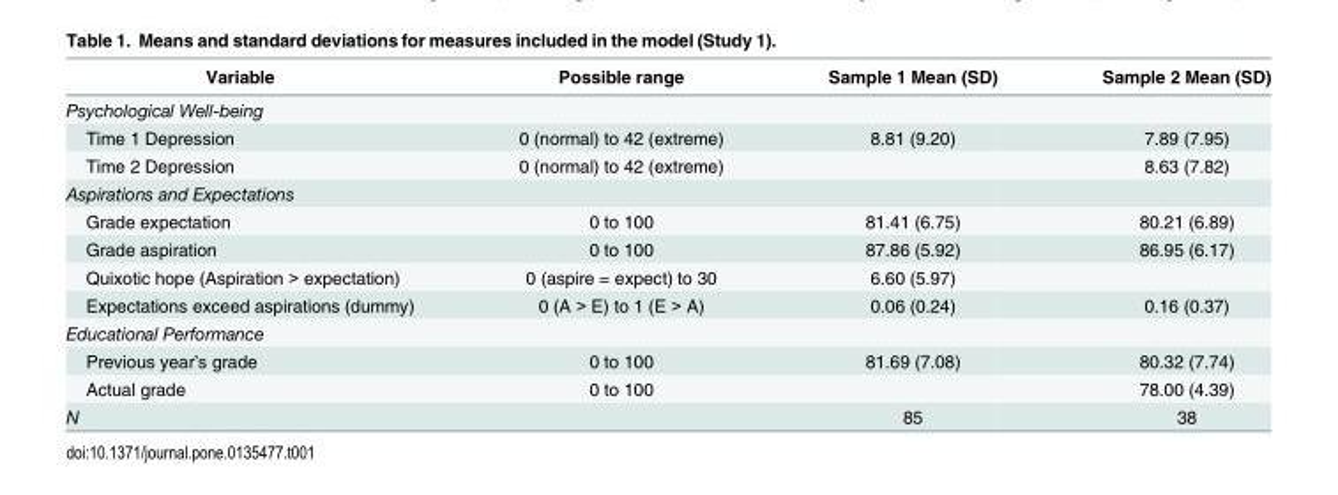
<table><thead><tr><td>Variable</td><td>Possible range</td><td>Sample 1 Mean (SD)</td><td>Sample 2 Mean (SD)</td></tr></thead><tbody><tr><td colspan="4">Psychological Well-being</td></tr><tr><td>Time 1 Depression</td><td>0 (normal) to 42 (extreme)</td><td>8.81 (9.20)</td><td>7.89 (7.95)</td></tr><tr><td>Time 2 Depression</td><td>0 (normal) to 42 (extreme)</td><td></td><td>8.63 (7.82)</td></tr><tr><td colspan="4">Aspirations and Expectations</td></tr><tr><td>Grade expectation</td><td>0 to 100</td><td>81.41 (6.75)</td><td>80.21 (6.89)</td></tr><tr><td>Grade aspiration</td><td>0 to 100</td><td>87.86 (5.92)</td><td>86.95 (6.17)</td></tr><tr><td>Quixotic hope (Aspiration &gt; expectation)</td><td>0 (aspire = expect) to 30</td><td>6.60 (5.97)</td><td></td></tr><tr><td>Expectations exceed aspirations (dummy)</td><td>0 (A &gt; E) to 1 (E &gt; A)</td><td>0.06 (0.24)</td><td>0.16 (0.37)</td></tr><tr><td colspan="4">Educational Performance</td></tr><tr><td>Previous year’s grade</td><td>0 to 100</td><td>81.69 (7.08)</td><td>80.32 (7.74)</td></tr><tr><td>Actual grade</td><td>0 to 100</td><td></td><td>78.00 (4.39)</td></tr><tr><td>N</td><td></td><td>85</td><td>38</td></tr></tbody></table>